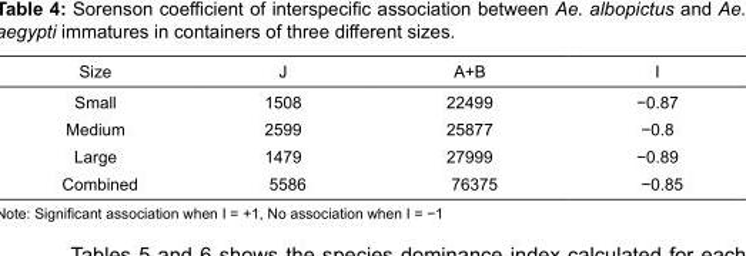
<table><thead><tr><td>Size</td><td>J</td><td>A+B</td><td>I</td></tr></thead><tbody><tr><td>Small</td><td>1508</td><td>22499</td><td>−0.87</td></tr><tr><td>Medium</td><td>2599</td><td>25877</td><td>−0.8</td></tr><tr><td>Large</td><td>1479</td><td>27999</td><td>−0.89</td></tr><tr><td>Combined</td><td>5586</td><td>76375</td><td>−0.85</td></tr></tbody></table>